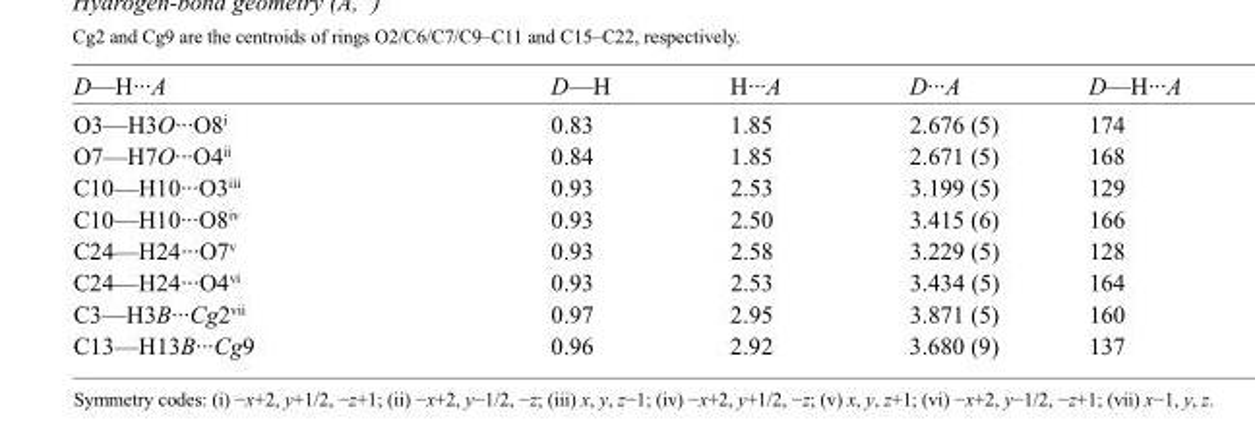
<table><tbody><tr><td>D—H···A</td><td>D—H</td><td>H···A</td><td>D···A</td><td>D—H···A</td></tr><tr><td>O3—H3O···O8<sup>i</sup></td><td>0.83</td><td>1.85</td><td>2.676 (5)</td><td>174</td></tr><tr><td>O7—H7O···O4<sup>ii</sup></td><td>0.84</td><td>1.85</td><td>2.671 (5)</td><td>168</td></tr><tr><td>C10—H10···O3<sup>iii</sup></td><td>0.93</td><td>2.53</td><td>3.199 (5)</td><td>129</td></tr><tr><td>C10—H10···O8<sup>iv</sup></td><td>0.93</td><td>2.50</td><td>3.415 (6)</td><td>166</td></tr><tr><td>C24—H24···O7<sup>v</sup></td><td>0.93</td><td>2.58</td><td>3.229 (5)</td><td>128</td></tr><tr><td>C24—H24···O4<sup>vi</sup></td><td>0.93</td><td>2.53</td><td>3.434 (5)</td><td>164</td></tr><tr><td>C3—H3B···Cg2<sup>vii</sup></td><td>0.97</td><td>2.95</td><td>3.871 (5)</td><td>160</td></tr><tr><td>C13—H13B···Cg9</td><td>0.96</td><td>2.92</td><td>3.680 (9)</td><td>137</td></tr></tbody></table>